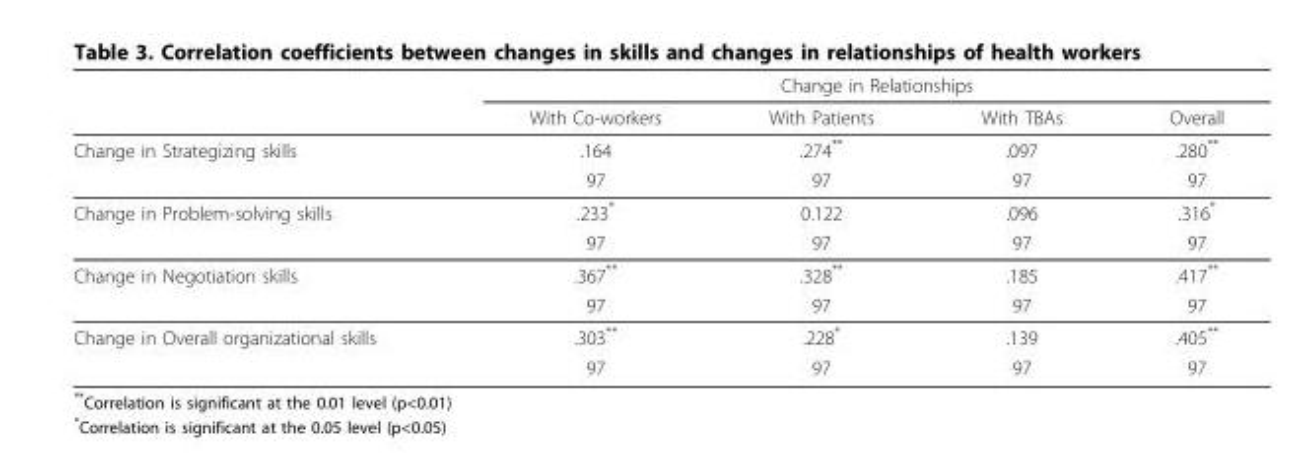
<table><thead><tr><td rowspan="2"></td><td colspan="4">Change in Relationships</td></tr><tr><td>With Co-workers</td><td>With Patients</td><td>With TBAs</td><td>Overall</td></tr></thead><tbody><tr><td rowspan="2">Change in Strategizing skills</td><td>.164</td><td>.274**</td><td>.097</td><td>.280**</td></tr><tr><td>97</td><td>97</td><td>97</td><td>97</td></tr><tr><td rowspan="2">Change in Problem-solving skills</td><td>.233*</td><td>0.122</td><td>.096</td><td>.316*</td></tr><tr><td>97</td><td>97</td><td>97</td><td>97</td></tr><tr><td rowspan="2">Change in Negotiation skills</td><td>.367**</td><td>.328**</td><td>.185</td><td>.417**</td></tr><tr><td>97</td><td>97</td><td>97</td><td>97</td></tr><tr><td rowspan="2">Change in Overall organizational skills</td><td>.303**</td><td>.228*</td><td>.139</td><td>.405**</td></tr><tr><td>97</td><td>97</td><td>97</td><td>97</td></tr></tbody></table>